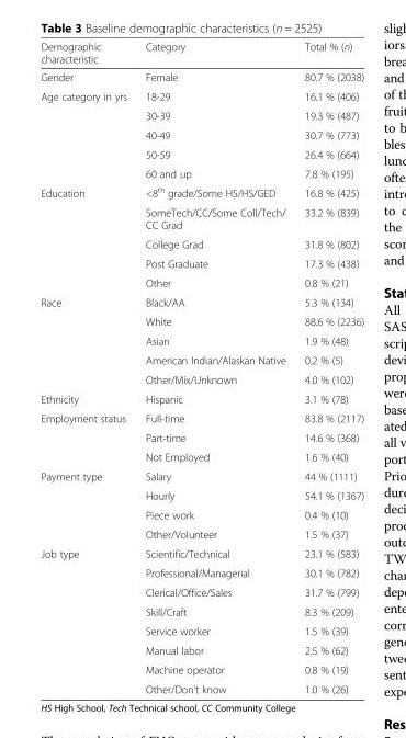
<table><thead><tr><td>Demographic characteristic</td><td>Category</td><td>Total % (n)</td></tr></thead><tbody><tr><td>Gender</td><td>Female</td><td>80.7 % (2038)</td></tr><tr><td rowspan="5">Age category in yrs</td><td>18-29</td><td>16.1 % (406)</td></tr><tr><td>30-39</td><td>19.3 % (487)</td></tr><tr><td>40-49</td><td>30.7 % (773)</td></tr><tr><td>50-59</td><td>26.4 % (664)</td></tr><tr><td>60 and up</td><td>7.8 % (195)</td></tr><tr><td rowspan="5">Education</td><td>&lt;8<sup>th</sup> grade/Some HS/HS/GED</td><td>16.8 % (425)</td></tr><tr><td>SomeTech/CC/Some Coll/Tech/ CC Grad</td><td>33.2 % (839)</td></tr><tr><td>College Grad</td><td>31.8 % (802)</td></tr><tr><td>Post Graduate</td><td>17.3 % (438)</td></tr><tr><td>Other</td><td>0.8 % (21)</td></tr><tr><td rowspan="5">Race</td><td>Black/AA</td><td>5.3 % (134)</td></tr><tr><td>White</td><td>88.6 % (2236)</td></tr><tr><td>Asian</td><td>1.9 % (48)</td></tr><tr><td>American Indian/Alaskan Native</td><td>0.2 % (5)</td></tr><tr><td>Other/Mix/Unknown</td><td>4.0 % (102)</td></tr><tr><td>Ethnicity</td><td>Hispanic</td><td>3.1 % (78)</td></tr><tr><td rowspan="3">Employment status</td><td>Full-time</td><td>83.8 % (2117)</td></tr><tr><td>Part-time</td><td>14.6 % (368)</td></tr><tr><td>Not Employed</td><td>1.6 % (40)</td></tr><tr><td rowspan="4">Payment type</td><td>Salary</td><td>44 % (1111)</td></tr><tr><td>Hourly</td><td>54.1 % (1367)</td></tr><tr><td>Piece work</td><td>0.4 % (10)</td></tr><tr><td>Other/Volunteer</td><td>1.5 % (37)</td></tr><tr><td rowspan="8">Job type</td><td>Scientific/Technical</td><td>23.1 % (583)</td></tr><tr><td>Professional/Managerial</td><td>30.1 % (782)</td></tr><tr><td>Clerical/Office/Sales</td><td>31.7 % (799)</td></tr><tr><td>Skill/Craft</td><td>8.3 % (209)</td></tr><tr><td>Service worker</td><td>1.5 % (39)</td></tr><tr><td>Manual labor</td><td>2.5 % (62)</td></tr><tr><td>Machine operator</td><td>0.8 % (19)</td></tr><tr><td>Other/Don&#x27;t know</td><td>1.0 % (26)</td></tr></tbody></table>